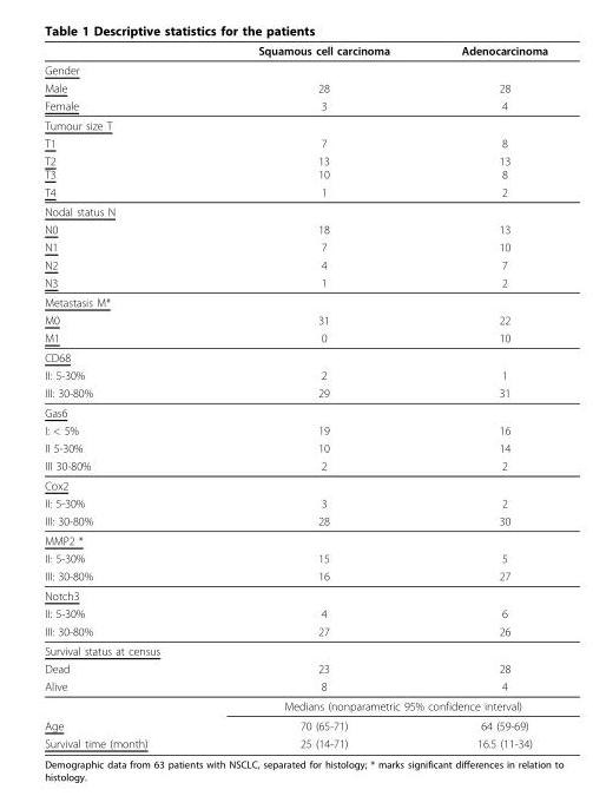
<table><thead><tr><td></td><td>Squamous cell carcinoma</td><td>Adenocarcinoma</td></tr></thead><tbody><tr><td colspan="3">Gender</td></tr><tr><td>Male</td><td>28</td><td>28</td></tr><tr><td>Female</td><td>3</td><td>4</td></tr><tr><td colspan="3">Tumour size T</td></tr><tr><td>T1</td><td>7</td><td>8</td></tr><tr><td>T2 T3</td><td>13 10</td><td>13 8</td></tr><tr><td>T4</td><td>1</td><td>2</td></tr><tr><td colspan="3">Nodal status N</td></tr><tr><td>N0</td><td>18</td><td>13</td></tr><tr><td>N1</td><td>7</td><td>10</td></tr><tr><td>N2</td><td>4</td><td>7</td></tr><tr><td>N3</td><td>1</td><td>2</td></tr><tr><td colspan="3">Metastasis M*</td></tr><tr><td>M0</td><td>31</td><td>22</td></tr><tr><td>M1</td><td>0</td><td>10</td></tr><tr><td colspan="3">CD68</td></tr><tr><td>II: 5-30%</td><td>2</td><td>1</td></tr><tr><td>III: 30-80%</td><td>29</td><td>31</td></tr><tr><td colspan="3">Gas6</td></tr><tr><td>I: &lt; 5%</td><td>19</td><td>16</td></tr><tr><td>II 5-30%</td><td>10</td><td>14</td></tr><tr><td>III 30-80%</td><td>2</td><td>2</td></tr><tr><td colspan="3">Cox2</td></tr><tr><td>II: 5-30%</td><td>3</td><td>2</td></tr><tr><td>III: 30-80%</td><td>28</td><td>30</td></tr><tr><td colspan="3">MMP2 *</td></tr><tr><td>II: 5-30%</td><td>15</td><td>5</td></tr><tr><td>III: 30-80%</td><td>16</td><td>27</td></tr><tr><td colspan="3">Notch3</td></tr><tr><td>II: 5-30%</td><td>4</td><td>6</td></tr><tr><td>III: 30-80%</td><td>27</td><td>26</td></tr><tr><td colspan="3">Survival status at census</td></tr><tr><td>Dead</td><td>23</td><td>28</td></tr><tr><td rowspan="2">Alive</td><td>8</td><td>4</td></tr><tr><td colspan="2">Medians (nonparametric 95% confidence interval)</td></tr><tr><td>Age</td><td>70 (65-71)</td><td>64 (59-69)</td></tr><tr><td>Survival time (month)</td><td>25 (14-71)</td><td>16.5 (11-34)</td></tr></tbody></table>